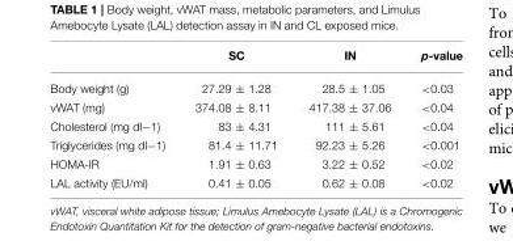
<table><thead><tr><td></td><td>SC</td><td>IN</td><td>p-value</td></tr></thead><tbody><tr><td>Body weight (g)</td><td>27.29 ± 1.28</td><td>28.5 ± 1.05</td><td>&lt;0.03</td></tr><tr><td>vWAT (mg)</td><td>374.08 ± 8.11</td><td>417.38 ± 37.06</td><td>&lt;0.04</td></tr><tr><td>Cholesterol (mg dl−1)</td><td>83 ± 4.31</td><td>111 ± 5.61</td><td>&lt;0.04</td></tr><tr><td>Triglycerides (mg dl−1)</td><td>81.4 ± 11.71</td><td>92.23 ± 5.26</td><td>&lt;0.001</td></tr><tr><td>HOMA-IR</td><td>1.91 ± 0.63</td><td>3.22 ± 0.52</td><td>&lt;0.02</td></tr><tr><td>LAL activity (EU/ml)</td><td>0.41 ± 0.05</td><td>0.62 ± 0.08</td><td>&lt;0.02</td></tr></tbody></table>